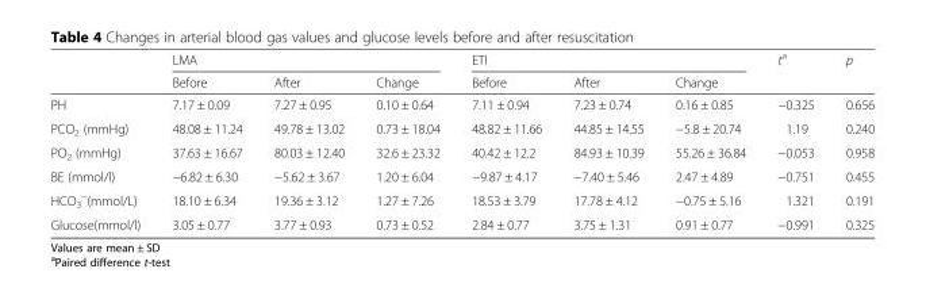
<table><thead><tr><td rowspan="2"></td><td colspan="3">LMA</td><td colspan="3">ETI</td><td rowspan="2">t<sup>a</sup></td><td rowspan="2">p</td></tr><tr><td>Before</td><td>After</td><td>Change</td><td>Before</td><td>After</td><td>Change</td></tr></thead><tbody><tr><td>PH</td><td>7.17 ± 0.09</td><td>7.27 ± 0.95</td><td>0.10 ± 0.64</td><td>7.11 ± 0.94</td><td>7.23 ± 0.74</td><td>0.16 ± 0.85</td><td>−0.325</td><td>0.656</td></tr><tr><td>PCO<sub>2</sub> (mmHg)</td><td>48.08 ± 11.24</td><td>49.78 ± 13.02</td><td>0.73 ± 18.04</td><td>48.82 ± 11.66</td><td>44.85 ± 14.55</td><td>−5.8 ± 20.74</td><td>1.19</td><td>0.240</td></tr><tr><td>PO<sub>2</sub> (mmHg)</td><td>37.63 ± 16.67</td><td>80.03 ± 12.40</td><td>32.6 ± 23.32</td><td>40.42 ± 12.2</td><td>84.93 ± 10.39</td><td>55.26 ± 36.84</td><td>−0.053</td><td>0.958</td></tr><tr><td>BE (mmol/l)</td><td>−6.82 ± 6.30</td><td>−5.62 ± 3.67</td><td>1.20 ± 6.04</td><td>−9.87 ± 4.17</td><td>−7.40 ± 5.46</td><td>2.47 ± 4.89</td><td>−0.751</td><td>0.455</td></tr><tr><td>HCO<sub>3</sub> <sup>−</sup>(mmol/L)</td><td>18.10 ± 6.34</td><td>19.36 ± 3.12</td><td>1.27 ± 7.26</td><td>18.53 ± 3.79</td><td>17.78 ± 4.12</td><td>−0.75 ± 5.16</td><td>1.321</td><td>0.191</td></tr><tr><td>Glucose(mmol/l)</td><td>3.05 ± 0.77</td><td>3.77 ± 0.93</td><td>0.73 ± 0.52</td><td>2.84 ± 0.77</td><td>3.75 ± 1.31</td><td>0.91 ± 0.77</td><td>−0.991</td><td>0.325</td></tr></tbody></table>